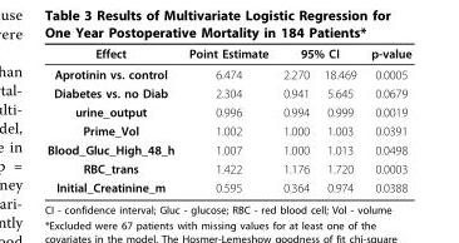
<table><thead><tr><td rowspan="2">Effect Aprotinin vs. control</td><td rowspan="2">Point Estimate 6.474</td><td colspan="2">95% CI</td><td rowspan="2">p-value 0.0005</td></tr><tr><td>2.270</td><td>18.469</td></tr></thead><tbody><tr><td>Diabetes vs. no Diab</td><td>2.304</td><td>0.941</td><td>5.645</td><td>0.0679</td></tr><tr><td>urine_output</td><td>0.996</td><td>0.994</td><td>0.999</td><td>0.0019</td></tr><tr><td>Prime_Vol</td><td>1.002</td><td>1.000</td><td>1.003</td><td>0.0391</td></tr><tr><td>Blood_Gluc_High_48_h</td><td>1.007</td><td>1.000</td><td>1.013</td><td>0.0498</td></tr><tr><td>RBC_trans</td><td>1.422</td><td>1.176</td><td>1.720</td><td>0.0003</td></tr><tr><td>Initial_Creatinine_m</td><td>0.595</td><td>0.364</td><td>0.974</td><td>0.0388</td></tr></tbody></table>